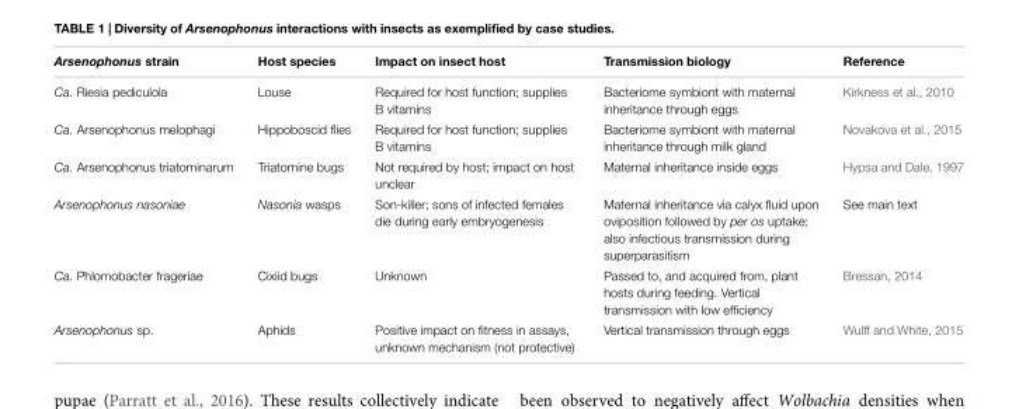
<table><thead><tr><td>Arsenophonus strain</td><td>Host species</td><td>Impact on insect host</td><td>Transmission biology</td><td>Reference</td></tr></thead><tbody><tr><td>Ca. Riesia pediculola</td><td>Louse</td><td>Required for host function; supplies B vitamins</td><td>Bacteriome symbiont with maternal inheritance through eggs</td><td>Kirkness et al., 2010</td></tr><tr><td>Ca. Arsenophonus melophagi</td><td>Hippoboscid flies</td><td>Required for host function; supplies B vitamins</td><td>Bacteriome symbiont with maternal inheritance through milk gland</td><td>Novakova et al., 2015</td></tr><tr><td>Ca. Arsenophonus triatominarum</td><td>Triatomine bugs</td><td>Not required by host; impact on host unclear</td><td>Maternal inheritance inside eggs</td><td>Hypsa and Dale, 1997</td></tr><tr><td>Arsenophonus nasoniae</td><td>Nasonia wasps</td><td>Son-killer; sons of infected females die during early embryogenesis</td><td>Maternal inheritance via calyx fluid upon oviposition followed by per os uptake; also infectious transmission during superparasitism</td><td>See main text</td></tr><tr><td>Ca. Phlomobacter frageriae</td><td>Cixiid bugs</td><td>Unknown</td><td>Passed to, and acquired from, plant hosts during feeding. Vertical transmission with low efficiency</td><td>Bressan, 2014</td></tr><tr><td>Arsenophonus sp.</td><td>Aphids</td><td>Positive impact on fitness in assays, unknown mechanism (not protective)</td><td>Vertical transmission through eggs</td><td>Wulff and White, 2015</td></tr></tbody></table>